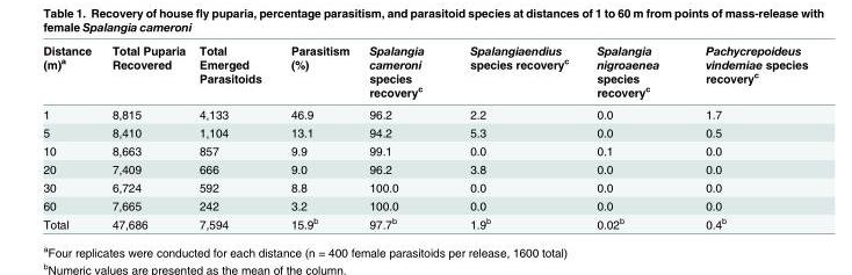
<table><thead><tr><td>Distance (m)<sup>a</sup></td><td>Total Puparia Recovered</td><td>Total Emerged Parasitoids</td><td>Parasitism (%)</td><td>Spalangia cameroni species recovery<sup>c</sup></td><td>Spalangiaendius species recovery<sup>c</sup></td><td>Spalangia nigroaenea species recovery<sup>c</sup></td><td>Pachycrepoideus vindemiae species recovery<sup>c</sup></td></tr></thead><tbody><tr><td>1</td><td>8,815</td><td>4,133</td><td>46.9</td><td>96.2</td><td>2.2</td><td>0.0</td><td>1.7</td></tr><tr><td>5</td><td>8,410</td><td>1,104</td><td>13.1</td><td>94.2</td><td>5.3</td><td>0.0</td><td>0.5</td></tr><tr><td>10</td><td>8,663</td><td>857</td><td>9.9</td><td>99.1</td><td>0.0</td><td>0.1</td><td>0.0</td></tr><tr><td>20</td><td>7,409</td><td>666</td><td>9.0</td><td>96.2</td><td>3.8</td><td>0.0</td><td>0.0</td></tr><tr><td>30</td><td>6,724</td><td>592</td><td>8.8</td><td>100.0</td><td>0.0</td><td>0.0</td><td>0.0</td></tr><tr><td>60</td><td>7,665</td><td>242</td><td>3.2</td><td>100.0</td><td>0.0</td><td>0.0</td><td>0.0</td></tr><tr><td>Total</td><td>47,686</td><td>7,594</td><td>15.9<sup>b</sup></td><td>97.7<sup>b</sup></td><td>1.9<sup>b</sup></td><td>0.02<sup>b</sup></td><td>0.4<sup>b</sup></td></tr></tbody></table>